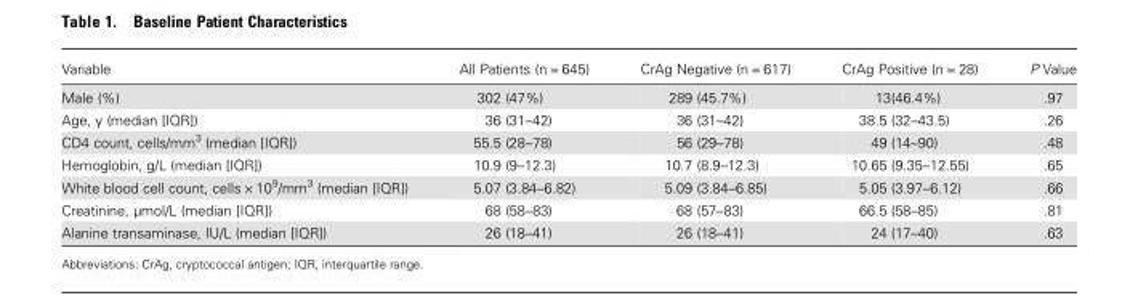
<table><thead><tr><td>Variable</td><td>All Patients (n = 645)</td><td>CrAg Negative (n = 617)</td><td>CrAg Positive (n = 28)</td><td>P Value</td></tr></thead><tbody><tr><td>Male (%)</td><td>302 (47%)</td><td>289 (45.7%)</td><td>13(46.4%)</td><td>.97</td></tr><tr><td>Age, y (median [IQR])</td><td>36 (31–42)</td><td>36 (31–42)</td><td>38.5 (32–43.5)</td><td>.26</td></tr><tr><td>CD4 count, cells/mm<sup>3</sup> (median [IQR])</td><td>55.5 (28–78)</td><td>56 (29–78)</td><td>49 (14–90)</td><td>.48</td></tr><tr><td>Hemoglobin, g/L (median [IQR])</td><td>10.9 (9–12.3)</td><td>10.7 (8.9–12.3)</td><td>10.65 (9.35–12.55)</td><td>.65</td></tr><tr><td>White blood cell count, cells × 10<sup>9</sup>/mm<sup>3</sup> (median [IQR])</td><td>5.07 (3.84–6.82)</td><td>5.09 (3.84–6.85)</td><td>5.05 (3.97–6.12)</td><td>.66</td></tr><tr><td>Creatinine, µmol/L (median [IQR])</td><td>68 (58–83)</td><td>68 (57–83)</td><td>66.5 (58–85)</td><td>.81</td></tr><tr><td>Alanine transaminase, IU/L (median [IQR])</td><td>26 (18–41)</td><td>26 (18–41)</td><td>24 (17–40)</td><td>.63</td></tr></tbody></table>